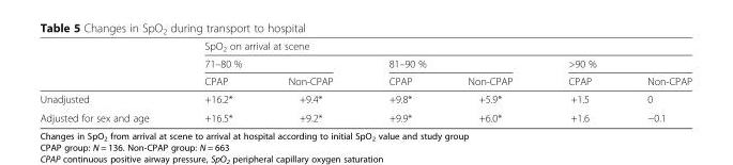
<table><thead><tr><td rowspan="3"></td><td colspan="6">SpO<sub>2</sub> on arrival at scene</td></tr><tr><td colspan="2">71–80 %</td><td colspan="2">81–90 %</td><td colspan="2">&gt;90 %</td></tr><tr><td>CPAP</td><td>Non-CPAP</td><td>CPAP</td><td>Non-CPAP</td><td>CPAP</td><td>Non-CPAP</td></tr></thead><tbody><tr><td>Unadjusted</td><td>+16.2*</td><td>+9.4*</td><td>+9.8*</td><td>+5.9*</td><td>+1.5</td><td>0</td></tr><tr><td>Adjusted for sex and age</td><td>+16.5*</td><td>+9.2*</td><td>+9.9*</td><td>+6.0*</td><td>+1.6</td><td>−0.1</td></tr></tbody></table>